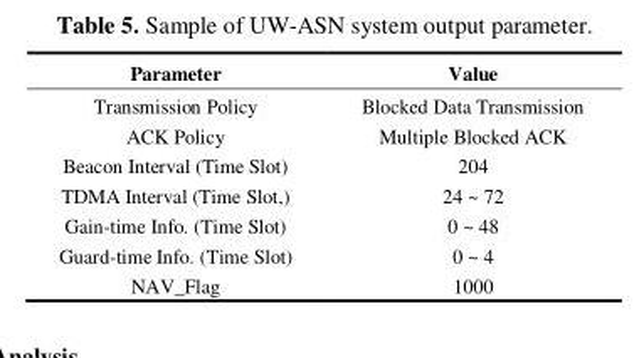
<table><thead><tr><td>Parameter</td><td>Value</td></tr></thead><tbody><tr><td>Transmission Policy</td><td>Blocked Data Transmission</td></tr><tr><td>ACK Policy</td><td>Multiple Blocked ACK</td></tr><tr><td>Beacon Interval (Time Slot)</td><td>204</td></tr><tr><td>TDMA Interval (Time Slot,)</td><td>24 ~ 72</td></tr><tr><td>Gain-time Info. (Time Slot)</td><td>0 ~ 48</td></tr><tr><td>Guard-time Info. (Time Slot)</td><td>0 ~ 4</td></tr><tr><td>NAV_Flag</td><td>1000</td></tr></tbody></table>